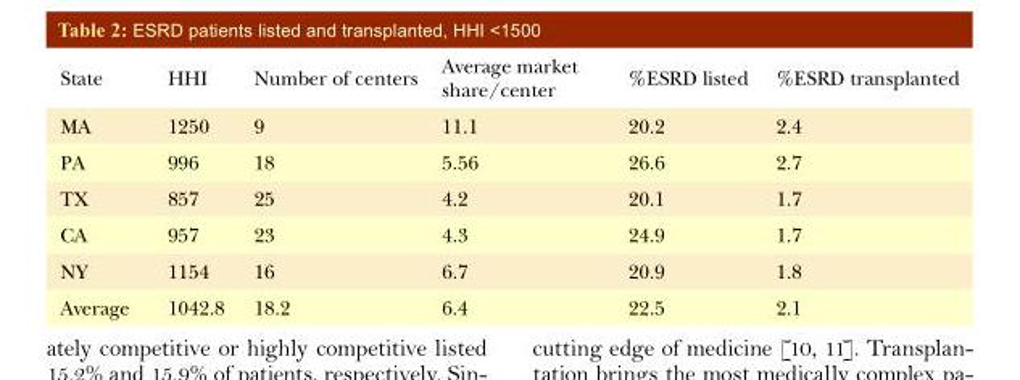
<table><thead><tr><td>State</td><td>HHI</td><td>Number of centers</td><td>Average market share/center</td><td>%ESRD listed</td><td>%ESRD transplanted</td></tr></thead><tbody><tr><td>MA</td><td>1250</td><td>9</td><td>11.1</td><td>20.2</td><td>2.4</td></tr><tr><td>PA</td><td>996</td><td>18</td><td>5.56</td><td>26.6</td><td>2.7</td></tr><tr><td>TX</td><td>857</td><td>25</td><td>4.2</td><td>20.1</td><td>1.7</td></tr><tr><td>CA</td><td>957</td><td>23</td><td>4.3</td><td>24.9</td><td>1.7</td></tr><tr><td>NY</td><td>1154</td><td>16</td><td>6.7</td><td>20.9</td><td>1.8</td></tr><tr><td>Average</td><td>1042.8</td><td>18.2</td><td>6.4</td><td>22.5</td><td>2.1</td></tr></tbody></table>